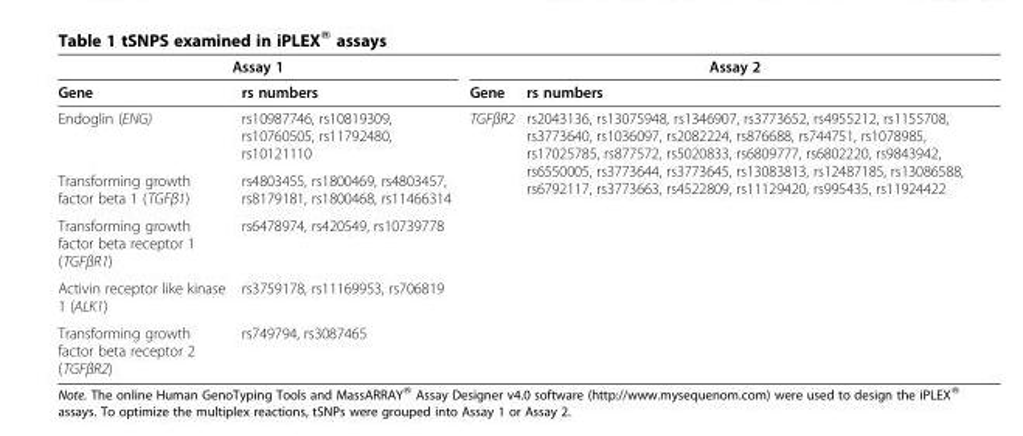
<table><thead><tr><td colspan="2">Assay 1</td><td colspan="2">Assay 2</td></tr><tr><td>Gene</td><td>rs numbers</td><td>Gene</td><td>rs numbers</td></tr></thead><tbody><tr><td>Endoglin (ENG)</td><td>rs10987746, rs10819309, rs10760505, rs11792480, rs10121110</td><td rowspan="4">TGFβR2</td><td rowspan="4">rs2043136, rs13075948, rs1346907, rs3773652, rs4955212, rs1155708, rs3773640, rs1036097, rs2082224, rs876688, rs744751, rs1078985, rs17025785, rs877572, rs5020833, rs6809777, rs6802220, rs9843942, rs6550005, rs3773644, rs3773645, rs13083813, rs12487185, rs13086588, rs6792117, rs3773663, rs4522809, rs11129420, rs995435, rs11924422</td></tr><tr><td>Transforming growth factor beta 1 (TGFβ1)</td><td>rs4803455, rs1800469, rs4803457, rs8179181, rs1800468, rs11466314</td></tr><tr><td>Transforming growth factor beta receptor 1 (TGFβR1)</td><td>rs6478974, rs420549, rs10739778</td></tr><tr><td>Activin receptor like kinase 1 (ALK1)</td><td>rs3759178, rs11169953, rs706819</td></tr><tr><td>Transforming growth factor beta receptor 2 (TGFβR2)</td><td>rs749794, rs3087465</td><td></td><td></td></tr></tbody></table>